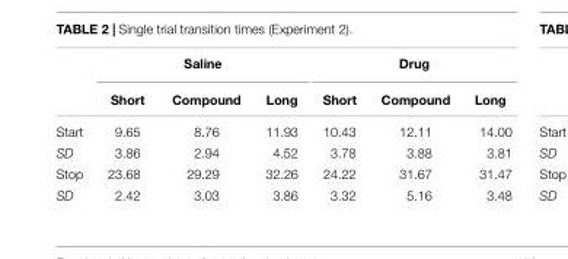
<table><thead><tr><td rowspan="2"></td><td colspan="3">Saline</td><td colspan="3">Drug</td></tr><tr><td>Short</td><td>Compound</td><td>Long</td><td>Short</td><td>Compound</td><td>Long</td></tr></thead><tbody><tr><td>Start</td><td>9.65</td><td>8.76</td><td>11.93</td><td>10.43</td><td>12.11</td><td>14.00</td></tr><tr><td>SD</td><td>3.86</td><td>2.94</td><td>4.52</td><td>3.78</td><td>3.88</td><td>3.81</td></tr><tr><td>Stop</td><td>23.68</td><td>29.29</td><td>32.26</td><td>24.22</td><td>31.67</td><td>31.47</td></tr><tr><td>SD</td><td>2.42</td><td>3.03</td><td>3.86</td><td>3.32</td><td>5.16</td><td>3.48</td></tr></tbody></table>